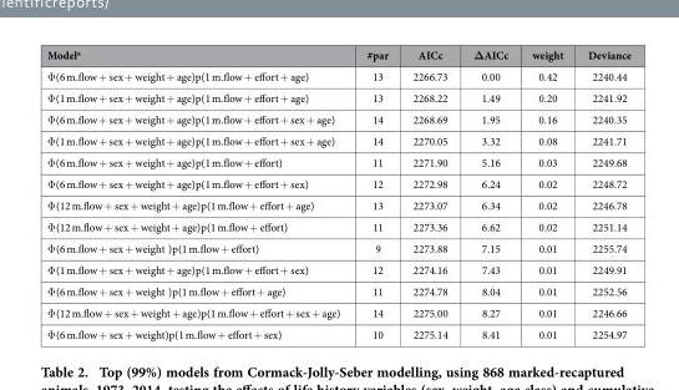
<table><thead><tr><td>Model<sup>a</sup></td><td>#par</td><td>AICc</td><td>ΔAICc</td><td>weight</td><td>Deviance</td></tr></thead><tbody><tr><td>Φ (6 m.flow + sex + weight + age)p(1 m.flow + effort + age)</td><td>13</td><td>2266.73</td><td>0.00</td><td>0.42</td><td>2240.44</td></tr><tr><td>Φ (1 m.flow + sex + weight + age)p(1 m.flow + effort + age)</td><td>13</td><td>2268.22</td><td>1.49</td><td>0.20</td><td>2241.92</td></tr><tr><td>Φ (6 m.flow + sex + weight + age)p(1 m.flow + effort + sex + age)</td><td>14</td><td>2268.69</td><td>1.95</td><td>0.16</td><td>2240.35</td></tr><tr><td>Φ (1 m.flow + sex + weight + age)p(1 m.flow + effort + sex + age)</td><td>14</td><td>2270.05</td><td>3.32</td><td>0.08</td><td>2241.71</td></tr><tr><td>Φ (6 m.flow + sex + weight + age)p(1 m.flow + effort)</td><td>11</td><td>2271.90</td><td>5.16</td><td>0.03</td><td>2249.68</td></tr><tr><td>Φ (6 m.flow + sex + weight + age)p(1 m.flow + effort + sex)</td><td>12</td><td>2272.98</td><td>6.24</td><td>0.02</td><td>2248.72</td></tr><tr><td>Φ (12 m.flow + sex + weight + age)p(1 m.flow + effort + age)</td><td>13</td><td>2273.07</td><td>6.34</td><td>0.02</td><td>2246.78</td></tr><tr><td>Φ (12 m.flow + sex + weight + age)p(1 m.flow + effort)</td><td>11</td><td>2273.36</td><td>6.62</td><td>0.02</td><td>2251.14</td></tr><tr><td>Φ (6 m.flow + sex + weight )p(1 m.flow + effort)</td><td>9</td><td>2273.88</td><td>7.15</td><td>0.01</td><td>2255.74</td></tr><tr><td>Φ (1 m.flow + sex + weight + age)p(1 m.flow + effort + sex)</td><td>12</td><td>2274.16</td><td>7.43</td><td>0.01</td><td>2249.91</td></tr><tr><td>Φ (6 m.flow + sex + weight )p(1 m.flow + effort + age)</td><td>11</td><td>2274.78</td><td>8.04</td><td>0.01</td><td>2252.56</td></tr><tr><td>Φ (12 m.flow + sex + weight + age)p(1 m.flow + effort + sex + age)</td><td>14</td><td>2275.00</td><td>8.27</td><td>0.01</td><td>2246.66</td></tr><tr><td>Φ (6 m.flow + sex + weight)p(1 m.flow + effort + sex)</td><td>10</td><td>2275.14</td><td>8.41</td><td>0.01</td><td>2254.97</td></tr></tbody></table>